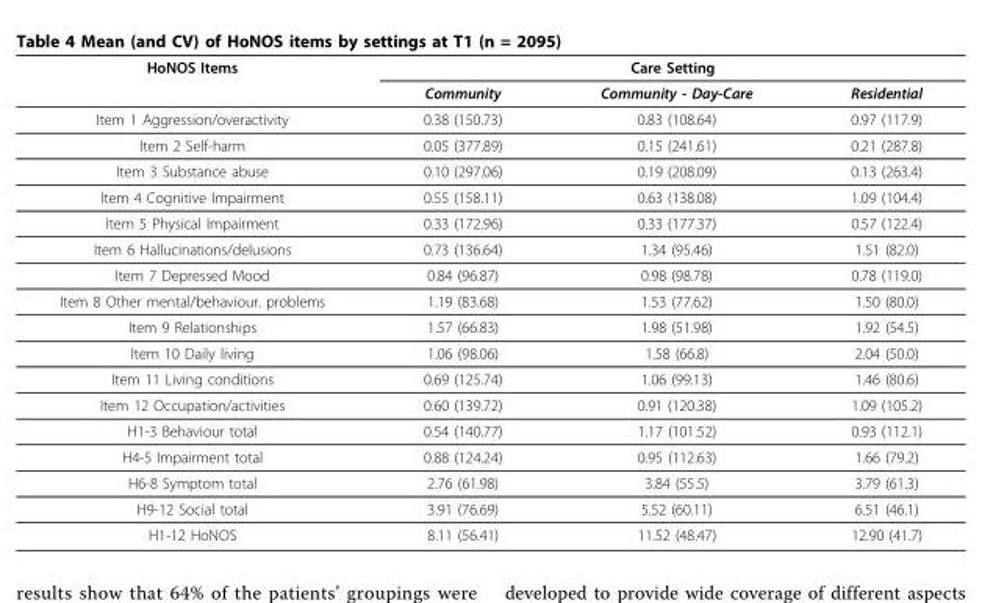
<table><thead><tr><td rowspan="2">HoNOS Items</td><td colspan="3">Care Setting</td></tr><tr><td>Community</td><td>Community - Day-Care</td><td>Residential</td></tr></thead><tbody><tr><td>Item 1 Aggression/overactivity</td><td>0.38 (150.73)</td><td>0.83 (108.64)</td><td>0.97 (117.9)</td></tr><tr><td>Item 2 Self-harm</td><td>0.05 (377.89)</td><td>0.15 (241.61)</td><td>0.21 (287.8)</td></tr><tr><td>Item 3 Substance abuse</td><td>0.10 (297.06)</td><td>0.19 (208.09)</td><td>0.13 (263.4)</td></tr><tr><td>Item 4 Cognitive Impairment</td><td>0.55 (158.11)</td><td>0.63 (138.08)</td><td>1.09 (104.4)</td></tr><tr><td>Item 5 Physical Impairment</td><td>0.33 (172.96)</td><td>0.33 (177.37)</td><td>0.57 (122.4)</td></tr><tr><td>Item 6 Hallucinations/delusions</td><td>0.73 (136.64)</td><td>1.34 (95.46)</td><td>1.51 (82.0)</td></tr><tr><td>Item 7 Depressed Mood</td><td>0.84 (96.87)</td><td>0.98 (98.78)</td><td>0.78 (119.0)</td></tr><tr><td>Item 8 Other mental/behaviour. problems</td><td>1.19 (83.68)</td><td>1.53 (77.62)</td><td>1.50 (80.0)</td></tr><tr><td>Item 9 Relationships</td><td>1.57 (66.83)</td><td>1.98 (51.98)</td><td>1.92 (54.5)</td></tr><tr><td>Item 10 Daily living</td><td>1.06 (98.06)</td><td>1.58 (66.8)</td><td>2.04 (50.0)</td></tr><tr><td>Item 11 Living conditions</td><td>0.69 (125.74)</td><td>1.06 (99.13)</td><td>1.46 (80.6)</td></tr><tr><td>Item 12 Occupation/activities</td><td>0.60 (139.72)</td><td>0.91 (120.38)</td><td>1.09 (105.2)</td></tr><tr><td>H1-3 Behaviour total</td><td>0.54 (140.77)</td><td>1.17 (101.52)</td><td>0.93 (112.1)</td></tr><tr><td>H4-5 Impairment total</td><td>0.88 (124.24)</td><td>0.95 (112.63)</td><td>1.66 (79.2)</td></tr><tr><td>H6-8 Symptom total</td><td>2.76 (61.98)</td><td>3.84 (55.5)</td><td>3.79 (61.3)</td></tr><tr><td>H9-12 Social total</td><td>3.91 (76.69)</td><td>5.52 (60.11)</td><td>6.51 (46.1)</td></tr><tr><td>H1-12 HoNOS</td><td>8.11 (56.41)</td><td>11.52 (48.47)</td><td>12.90 (41.7)</td></tr></tbody></table>